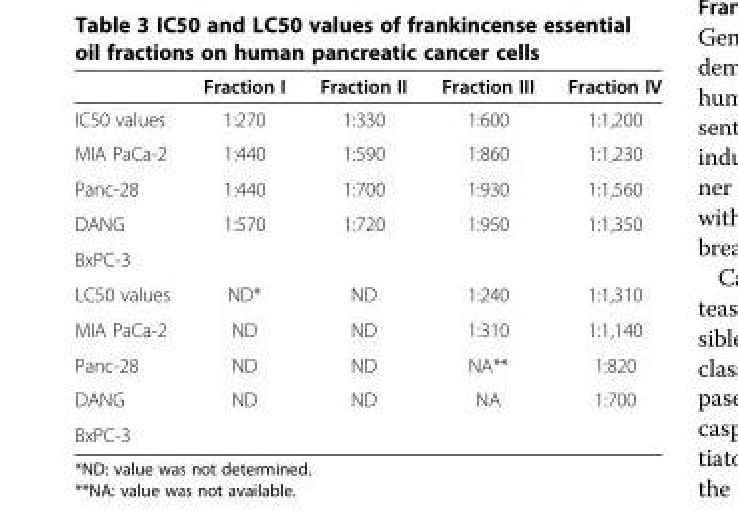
<table><thead><tr><td></td><td>Fraction I</td><td>Fraction II</td><td>Fraction III</td><td>Fraction IV</td></tr></thead><tbody><tr><td>IC50 values</td><td>1:270</td><td>1:330</td><td>1:600</td><td>1:1,200</td></tr><tr><td>MIA PaCa-2</td><td>1:440</td><td>1:590</td><td>1:860</td><td>1:1,230</td></tr><tr><td>Panc-28</td><td>1:440</td><td>1:700</td><td>1:930</td><td>1:1,560</td></tr><tr><td>DANG</td><td>1:570</td><td>1:720</td><td>1:950</td><td>1:1,350</td></tr><tr><td colspan="5">BxPC-3</td></tr><tr><td>LC50 values</td><td>ND*</td><td>ND</td><td>1:240</td><td>1:1,310</td></tr><tr><td>MIA PaCa-2</td><td>ND</td><td>ND</td><td>1:310</td><td>1:1,140</td></tr><tr><td>Panc-28</td><td>ND</td><td>ND</td><td>NA**</td><td>1:820</td></tr><tr><td>DANG</td><td>ND</td><td>ND</td><td>NA</td><td>1:700</td></tr><tr><td>BxPC-3</td><td></td><td></td><td></td><td></td></tr></tbody></table>